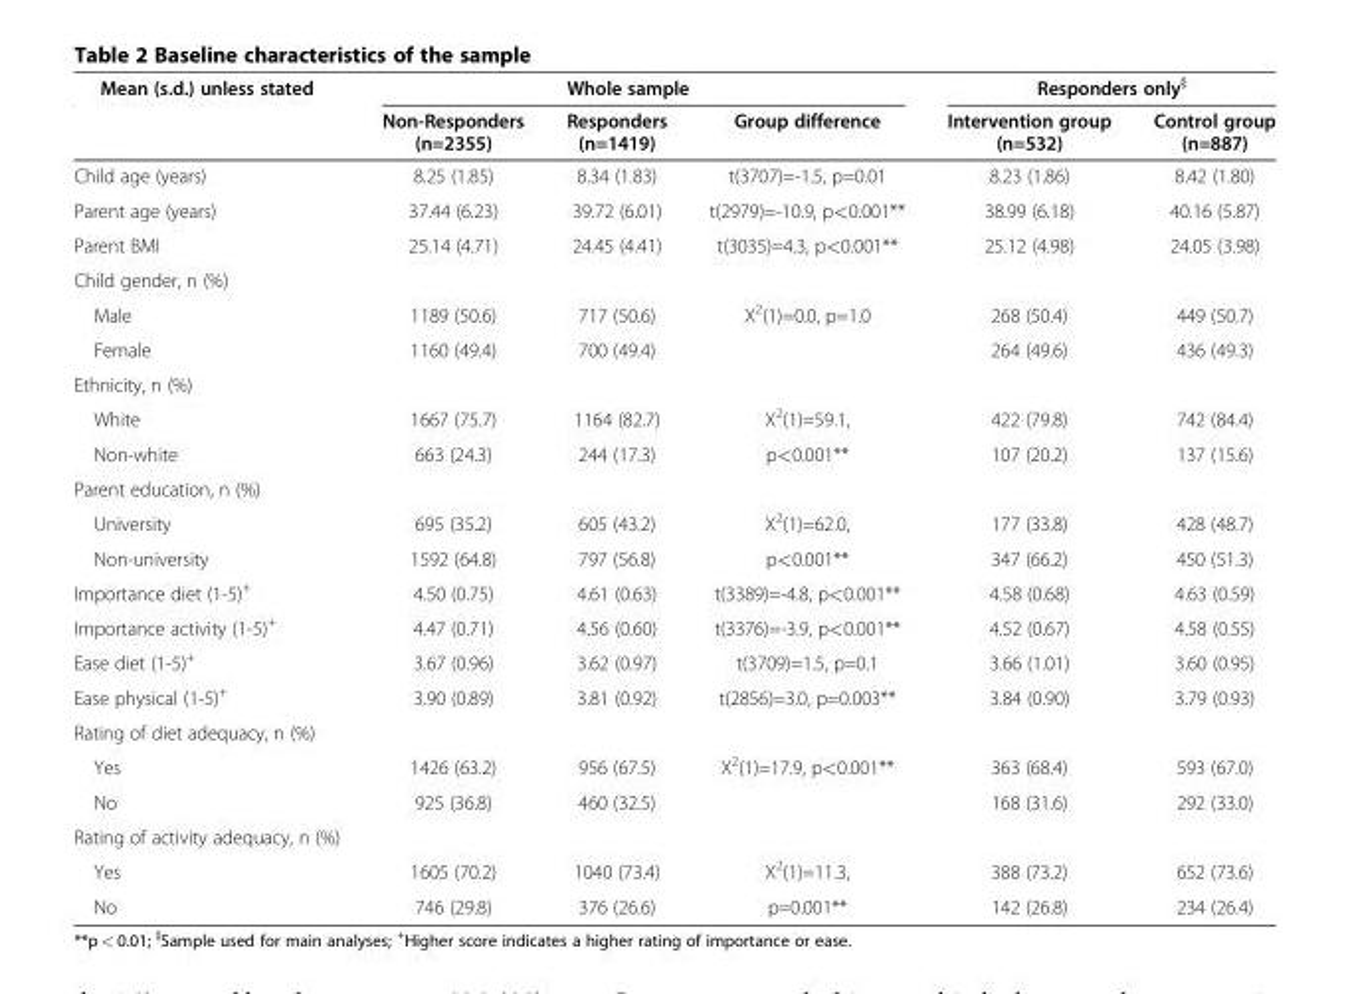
<table><thead><tr><td rowspan="2">Mean (s.d.) unless stated</td><td rowspan="2">Non-Responders (n=2355)</td><td colspan="2">Whole sample</td><td colspan="2">Responders only<sup>§</sup></td></tr><tr><td>Responders (n=1419)</td><td>Group difference</td><td>Intervention group (n=532)</td><td>Control group (n=887)</td></tr></thead><tbody><tr><td>Child age (years)</td><td>8.25 (1.85)</td><td>8.34 (1.83)</td><td>t(3707)=-1.5, p=0.01</td><td>8.23 (1.86)</td><td>8.42 (1.80)</td></tr><tr><td>Parent age (years)</td><td>37.44 (6.23)</td><td>39.72 (6.01)</td><td>t(2979)=-10.9, p&lt;0.001**</td><td>38.99 (6.18)</td><td>40.16 (5.87)</td></tr><tr><td>Parent BMI</td><td>25.14 (4.71)</td><td>24.45 (4.41)</td><td>t(3035)=4.3, p&lt;0.001**</td><td>25.12 (4.98)</td><td>24.05 (3.98)</td></tr><tr><td colspan="6">Child gender, n (%)</td></tr><tr><td>Male</td><td>1189 (50.6)</td><td>717 (50.6)</td><td>X<sup>2</sup>(1)=0.0, p=1.0</td><td>268 (50.4)</td><td>449 (50.7)</td></tr><tr><td>Female</td><td>1160 (49.4)</td><td>700 (49.4)</td><td></td><td>264 (49.6)</td><td>436 (49.3)</td></tr><tr><td colspan="6">Ethnicity, n (%)</td></tr><tr><td>White</td><td>1667 (75.7)</td><td>1164 (82.7)</td><td>X<sup>2</sup>(1)=59.1,</td><td>422 (79.8)</td><td>742 (84.4)</td></tr><tr><td>Non-white</td><td>663 (24.3)</td><td>244 (17.3)</td><td>p&lt;0.001**</td><td>107 (20.2)</td><td>137 (15.6)</td></tr><tr><td colspan="6">Parent education, n (%)</td></tr><tr><td>University</td><td>695 (35.2)</td><td>605 (43.2)</td><td>X<sup>2</sup>(1)=62.0,</td><td>177 (33.8)</td><td>428 (48.7)</td></tr><tr><td>Non-university</td><td>1592 (64.8)</td><td>797 (56.8)</td><td>p&lt;0.001**</td><td>347 (66.2)</td><td>450 (51.3)</td></tr><tr><td>Importance diet (1-5)<sup>+</sup></td><td>4.50 (0.75)</td><td>4.61 (0.63)</td><td>t(3389)=-4.8, p&lt;0.001**</td><td>4.58 (0.68)</td><td>4.63 (0.59)</td></tr><tr><td>Importance activity (1-5)<sup>+</sup></td><td>4.47 (0.71)</td><td>4.56 (0.60)</td><td>t(3376)=-3.9, p&lt;0.001**</td><td>4.52 (0.67)</td><td>4.58 (0.55)</td></tr><tr><td>Ease diet (1-5)<sup>+</sup></td><td>3.67 (0.96)</td><td>3.62 (0.97)</td><td>t(3709)=1.5, p=0.1</td><td>3.66 (1.01)</td><td>3.60 (0.95)</td></tr><tr><td>Ease physical (1-5)<sup>+</sup></td><td>3.90 (0.89)</td><td>3.81 (0.92)</td><td>t(2856)=3.0, p=0.003**</td><td>3.84 (0.90)</td><td>3.79 (0.93)</td></tr><tr><td colspan="6">Rating of diet adequacy, n (%)</td></tr><tr><td>Yes</td><td>1426 (63.2)</td><td>956 (67.5)</td><td>X<sup>2</sup>(1)=17.9, p&lt;0.001**</td><td>363 (68.4)</td><td>593 (67.0)</td></tr><tr><td>No</td><td>925 (36.8)</td><td>460 (32.5)</td><td></td><td>168 (31.6)</td><td>292 (33.0)</td></tr><tr><td colspan="6">Rating of activity adequacy, n (%)</td></tr><tr><td>Yes</td><td>1605 (70.2)</td><td>1040 (73.4)</td><td>X<sup>2</sup>(1)=11.3,</td><td>388 (73.2)</td><td>652 (73.6)</td></tr><tr><td>No</td><td>746 (29.8)</td><td>376 (26.6)</td><td>p=0.001**</td><td>142 (26.8)</td><td>234 (26.4)</td></tr></tbody></table>